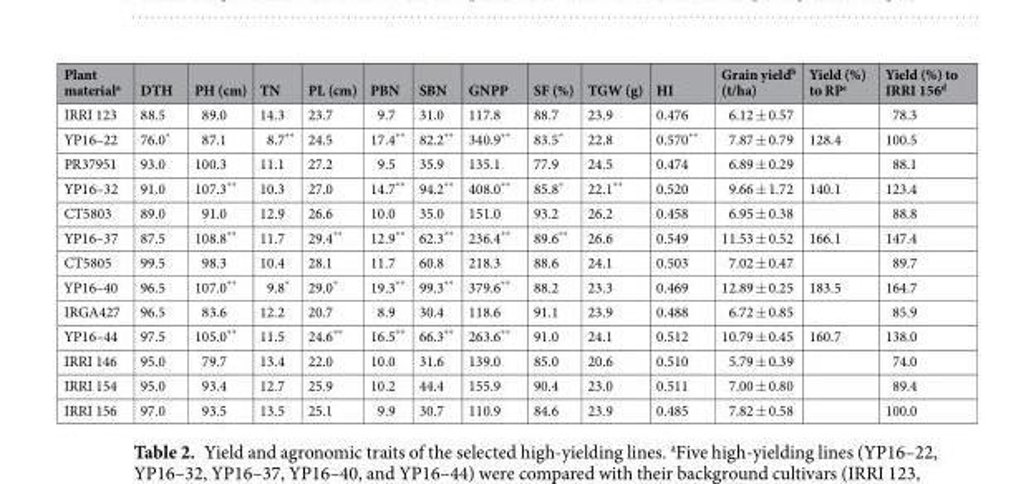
<table><thead><tr><td>Plant material<sup>a</sup></td><td>DTH</td><td>PH (cm)</td><td>TN</td><td>PL (cm)</td><td>PBN</td><td>SBN</td><td>GNPP</td><td>SF (%)</td><td>TGW (g)</td><td>HI</td><td>Grain yield<sup>b</sup> (t/ha)</td><td>Yield (%) to RP<sup>c</sup></td><td>Yield (%) to IRRI 156<sup>d</sup></td></tr></thead><tbody><tr><td>IRRI 123</td><td>88.5</td><td>89.0</td><td>14.3</td><td>23.7</td><td>9.7</td><td>31.0</td><td>117.8</td><td>88.7</td><td>23.9</td><td>0.476</td><td>6.12 ± 0.57</td><td></td><td>78.3</td></tr><tr><td>YP16–22</td><td>76.0*</td><td>87.1</td><td>8.7**</td><td>24.5</td><td>17.4**</td><td>82.2**</td><td>340.9**</td><td>83.5*</td><td>22.8</td><td>0.570**</td><td>7.87 ± 0.79</td><td>128.4</td><td>100.5</td></tr><tr><td>PR37951</td><td>93.0</td><td>100.3</td><td>11.1</td><td>27.2</td><td>9.5</td><td>35.9</td><td>135.1</td><td>77.9</td><td>24.5</td><td>0.474</td><td>6.89 ± 0.29</td><td></td><td>88.1</td></tr><tr><td>YP16–32</td><td>91.0</td><td>107.3**</td><td>10.3</td><td>27.0</td><td>14.7**</td><td>94.2**</td><td>408.0**</td><td>85.8*</td><td>22.1**</td><td>0.520</td><td>9.66 ± 1.72</td><td>140.1</td><td>123.4</td></tr><tr><td>CT5803</td><td>89.0</td><td>91.0</td><td>12.9</td><td>26.6</td><td>10.0</td><td>35.0</td><td>151.0</td><td>93.2</td><td>26.2</td><td>0.458</td><td>6.95 ± 0.38</td><td></td><td>88.8</td></tr><tr><td>YP16–37</td><td>87.5</td><td>108.8**</td><td>11.7</td><td>29.4**</td><td>12.9**</td><td>62.3**</td><td>236.4**</td><td>89.6**</td><td>26.6</td><td>0.549</td><td>11.53 ± 0.52</td><td>166.1</td><td>147.4</td></tr><tr><td>CT5805</td><td>99.5</td><td>98.3</td><td>10.4</td><td>28.1</td><td>11.7</td><td>60.8</td><td>218.3</td><td>88.6</td><td>24.1</td><td>0.503</td><td>7.02 ± 0.47</td><td></td><td>89.7</td></tr><tr><td>YP16–40</td><td>96.5</td><td>107.0**</td><td>9.8*</td><td>29.0*</td><td>19.3**</td><td>99.3**</td><td>379.6**</td><td>88.2</td><td>23.3</td><td>0.469</td><td>12.89 ± 0.25</td><td>183.5</td><td>164.7</td></tr><tr><td>IRGA427</td><td>96.5</td><td>83.6</td><td>12.2</td><td>20.7</td><td>8.9</td><td>30.4</td><td>118.6</td><td>91.1</td><td>23.9</td><td>0.488</td><td>6.72 ± 0.85</td><td></td><td>85.9</td></tr><tr><td>YP16–44</td><td>97.5</td><td>105.0**</td><td>11.5</td><td>24.6**</td><td>16.5**</td><td>66.3**</td><td>263.6**</td><td>91.0</td><td>24.1</td><td>0.512</td><td>10.79 ± 0.45</td><td>160.7</td><td>138.0</td></tr><tr><td>IRRI 146</td><td>95.0</td><td>79.7</td><td>13.4</td><td>22.0</td><td>10.0</td><td>31.6</td><td>139.0</td><td>85.0</td><td>20.6</td><td>0.510</td><td>5.79 ± 0.39</td><td></td><td>74.0</td></tr><tr><td>IRRI 154</td><td>95.0</td><td>93.4</td><td>12.7</td><td>25.9</td><td>10.2</td><td>44.4</td><td>155.9</td><td>90.4</td><td>23.0</td><td>0.511</td><td>7.00 ± 0.80</td><td></td><td>89.4</td></tr><tr><td>IRRI 156</td><td>97.0</td><td>93.5</td><td>13.5</td><td>25.1</td><td>9.9</td><td>30.7</td><td>110.9</td><td>84.6</td><td>23.9</td><td>0.485</td><td>7.82 ± 0.58</td><td></td><td>100.0</td></tr></tbody></table>